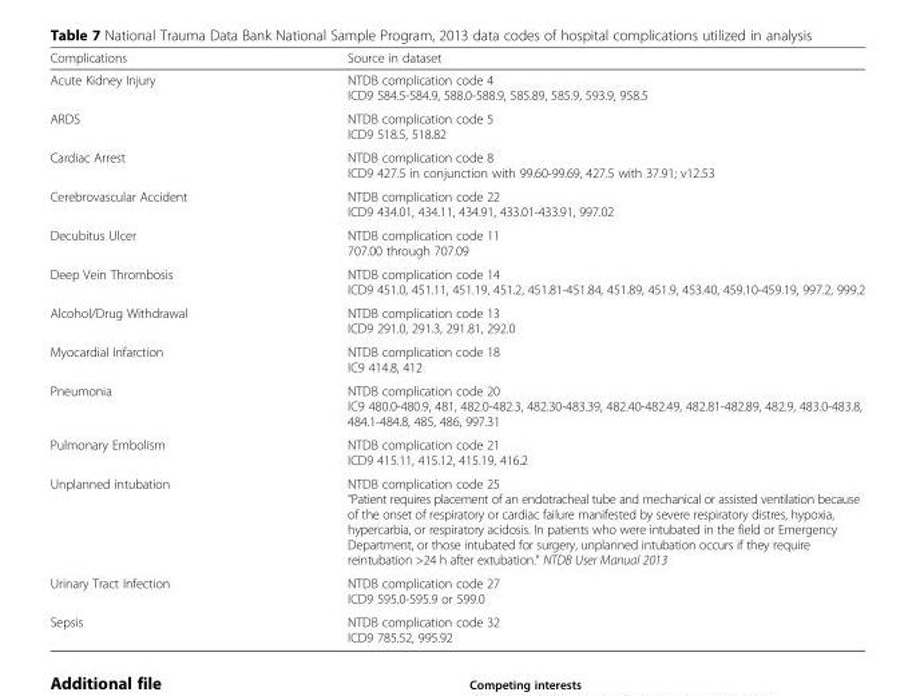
<table><thead><tr><td>Complications</td><td>Source in dataset</td></tr></thead><tbody><tr><td>Acute Kidney Injury</td><td>NTDB complication code 4 ICD9 584.5-584.9, 588.0-588.9, 585.89, 585.9, 593.9, 958.5</td></tr><tr><td>ARDS</td><td>NTDB complication code 5 ICD9 518.5, 518.82</td></tr><tr><td>Cardiac Arrest</td><td>NTDB complication code 8 ICD9 427.5 in conjunction with 99.60-99.69, 427.5 with 37.91; v12.53</td></tr><tr><td>Cerebrovascular Accident</td><td>NTDB complication code 22 ICD9 434.01, 434.11, 434.91, 433.01-433.91, 997.02</td></tr><tr><td>Decubitus Ulcer</td><td>NTDB complication code 11 707.00 through 707.09</td></tr><tr><td>Deep Vein Thrombosis</td><td>NTDB complication code 14 ICD9 451.0, 451.11, 451.19, 451.2, 451.81-451.84, 451.89, 451.9, 453.40, 459.10-459.19, 997.2, 999.2</td></tr><tr><td>Alcohol/Drug Withdrawal</td><td>NTDB complication code 13 ICD9 291.0, 291.3, 291.81, 292.0</td></tr><tr><td>Myocardial Infarction</td><td>NTDB complication code 18 IC9 414.8, 412</td></tr><tr><td>Pneumonia</td><td>NTDB complication code 20 IC9 480.0-480.9, 481, 482.0-482.3, 482.30-483.39, 482.40-482.49, 482.81-482.89, 482.9, 483.0-483.8, 484.1-484.8, 485, 486, 997.31</td></tr><tr><td>Pulmonary Embolism</td><td>NTDB complication code 21 ICD9 415.11, 415.12, 415.19, 416.2</td></tr><tr><td>Unplanned intubation</td><td>NTDB complication code 25 “Patient requires placement of an endotracheal tube and mechanical or assisted ventilation because of the onset of respiratory or cardiac failure manifested by severe respiratory distres, hypoxia, hypercarbia, or respiratory acidosis. In patients who were intubated in the field or Emergency Department, or those intubated for surgery, unplanned intubation occurs if they require reintubation &gt;24 h after extubation.” NTDB User Manual 2013</td></tr><tr><td>Urinary Tract Infection</td><td>NTDB complication code 27 ICD9 595.0-595.9 or 599.0</td></tr><tr><td>Sepsis</td><td>NTDB complication code 32 ICD9 785.52, 995.92</td></tr></tbody></table>